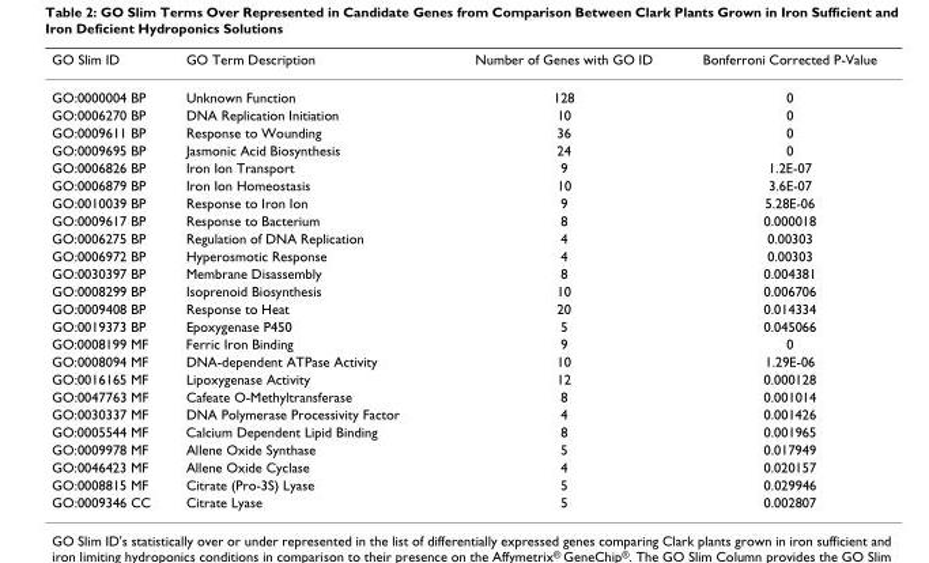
<table><thead><tr><td>GO Slim ID</td><td>GO Term Description</td><td>Number of Genes with GO ID</td><td>Bonferroni Corrected P-Value</td></tr></thead><tbody><tr><td>GO:0000004 BP</td><td>Unknown Function</td><td>128</td><td>0</td></tr><tr><td>GO:0006270 BP</td><td>DNA Replication Initiation</td><td>10</td><td>0</td></tr><tr><td>GO:0009611 BP</td><td>Response to Wounding</td><td>36</td><td>0</td></tr><tr><td>GO:0009695 BP</td><td>Jasmonic Acid Biosynthesis</td><td>24</td><td>0</td></tr><tr><td>GO:0006826 BP</td><td>Iron Ion Transport</td><td>9</td><td>1.2E-07</td></tr><tr><td>GO:0006879 BP</td><td>Iron Ion Homeostasis</td><td>10</td><td>3.6E-07</td></tr><tr><td>GO:0010039 BP</td><td>Response to Iron Ion</td><td>9</td><td>5.28E-06</td></tr><tr><td>GO:0009617 BP</td><td>Response to Bacterium</td><td>8</td><td>0.000018</td></tr><tr><td>GO:0006275 BP</td><td>Regulation of DNA Replication</td><td>4</td><td>0.00303</td></tr><tr><td>GO:0006972 BP</td><td>Hyperosmotic Response</td><td>4</td><td>0.00303</td></tr><tr><td>GO:0030397 BP</td><td>Membrane Disassembly</td><td>8</td><td>0.004381</td></tr><tr><td>GO:0008299 BP</td><td>Isoprenoid Biosynthesis</td><td>10</td><td>0.006706</td></tr><tr><td>GO:0009408 BP</td><td>Response to Heat</td><td>20</td><td>0.014334</td></tr><tr><td>GO:0019373 BP</td><td>Epoxygenase P450</td><td>5</td><td>0.045066</td></tr><tr><td>GO:0008199 MF</td><td>Ferric Iron Binding</td><td>9</td><td>0</td></tr><tr><td>GO:0008094 MF</td><td>DNA-dependent ATPase Activity</td><td>10</td><td>1.29E-06</td></tr><tr><td>GO:0016165 MF</td><td>Lipoxygenase Activity</td><td>12</td><td>0.000128</td></tr><tr><td>GO:0047763 MF</td><td>Cafeate O-Methyltransferase</td><td>8</td><td>0.001014</td></tr><tr><td>GO:0030337 MF</td><td>DNA Polymerase Processivity Factor</td><td>4</td><td>0.001426</td></tr><tr><td>GO:0005544 MF</td><td>Calcium Dependent Lipid Binding</td><td>8</td><td>0.001965</td></tr><tr><td>GO:0009978 MF</td><td>Allene Oxide Synthase</td><td>5</td><td>0.017949</td></tr><tr><td>GO:0046423 MF</td><td>Allene Oxide Cyclase</td><td>4</td><td>0.020157</td></tr><tr><td>GO:0008815 MF</td><td>Citrate (Pro-3S) Lyase</td><td>5</td><td>0.029946</td></tr><tr><td>GO:0009346 CC</td><td>Citrate Lyase</td><td>5</td><td>0.002807</td></tr></tbody></table>